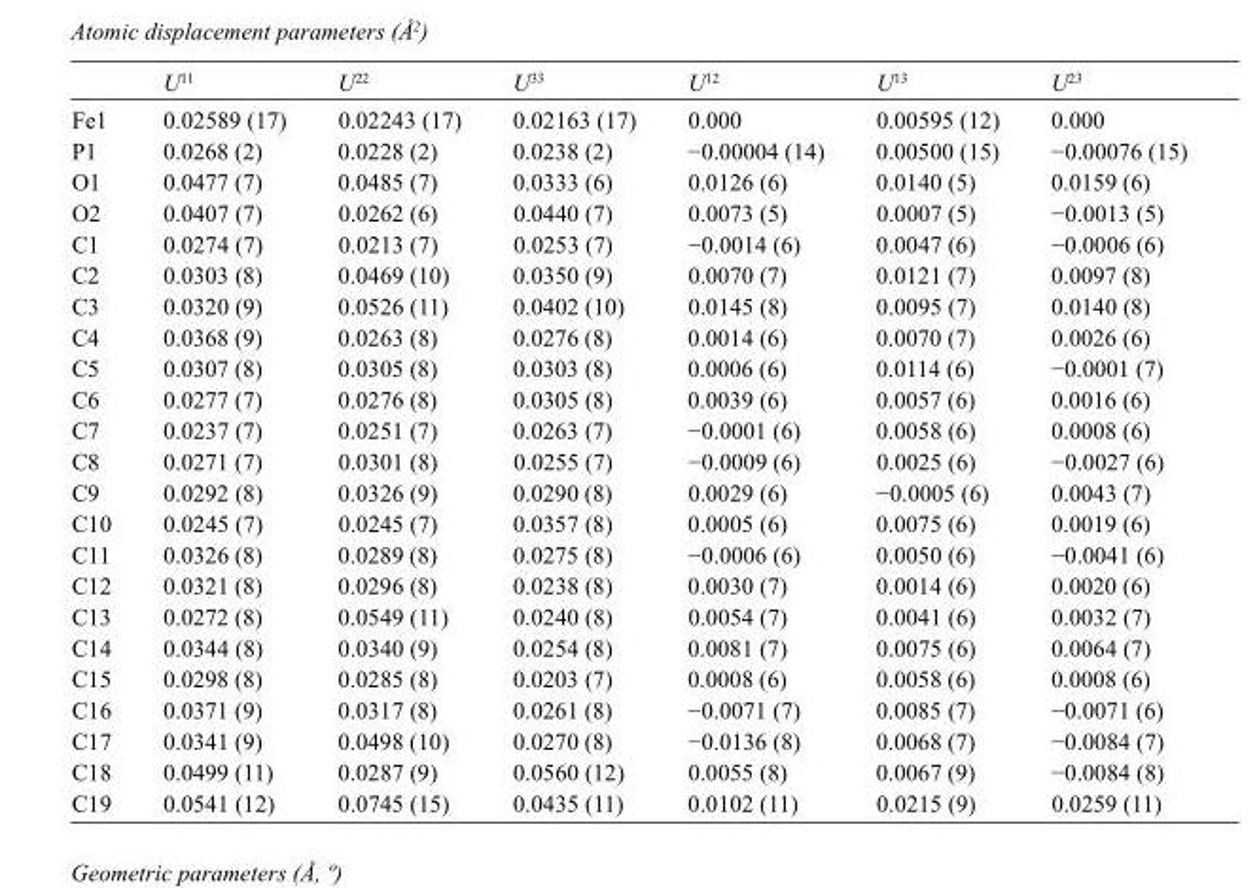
<table><thead><tr><td></td><td>U<sup>11</sup></td><td>U<sup>22</sup></td><td>U<sup>33</sup></td><td>U<sup>12</sup></td><td>U<sup>13</sup></td><td>U<sup>23</sup></td></tr></thead><tbody><tr><td>Fe1</td><td>0.02589 (17)</td><td>0.02243 (17)</td><td>0.02163 (17)</td><td>0.000</td><td>0.00595 (12)</td><td>0.000</td></tr><tr><td>P1</td><td>0.0268 (2)</td><td>0.0228 (2)</td><td>0.0238 (2)</td><td>−0.00004 (14)</td><td>0.00500 (15)</td><td>−0.00076 (15)</td></tr><tr><td>O1</td><td>0.0477 (7)</td><td>0.0485 (7)</td><td>0.0333 (6)</td><td>0.0126 (6)</td><td>0.0140 (5)</td><td>0.0159 (6)</td></tr><tr><td>O2</td><td>0.0407 (7)</td><td>0.0262 (6)</td><td>0.0440 (7)</td><td>0.0073 (5)</td><td>0.0007 (5)</td><td>−0.0013 (5)</td></tr><tr><td>C1</td><td>0.0274 (7)</td><td>0.0213 (7)</td><td>0.0253 (7)</td><td>−0.0014 (6)</td><td>0.0047 (6)</td><td>−0.0006 (6)</td></tr><tr><td>C2</td><td>0.0303 (8)</td><td>0.0469 (10)</td><td>0.0350 (9)</td><td>0.0070 (7)</td><td>0.0121 (7)</td><td>0.0097 (8)</td></tr><tr><td>C3</td><td>0.0320 (9)</td><td>0.0526 (11)</td><td>0.0402 (10)</td><td>0.0145 (8)</td><td>0.0095 (7)</td><td>0.0140 (8)</td></tr><tr><td>C4</td><td>0.0368 (9)</td><td>0.0263 (8)</td><td>0.0276 (8)</td><td>0.0014 (6)</td><td>0.0070 (7)</td><td>0.0026 (6)</td></tr><tr><td>C5</td><td>0.0307 (8)</td><td>0.0305 (8)</td><td>0.0303 (8)</td><td>0.0006 (6)</td><td>0.0114 (6)</td><td>−0.0001 (7)</td></tr><tr><td>C6</td><td>0.0277 (7)</td><td>0.0276 (8)</td><td>0.0305 (8)</td><td>0.0039 (6)</td><td>0.0057 (6)</td><td>0.0016 (6)</td></tr><tr><td>C7</td><td>0.0237 (7)</td><td>0.0251 (7)</td><td>0.0263 (7)</td><td>−0.0001 (6)</td><td>0.0058 (6)</td><td>0.0008 (6)</td></tr><tr><td>C8</td><td>0.0271 (7)</td><td>0.0301 (8)</td><td>0.0255 (7)</td><td>−0.0009 (6)</td><td>0.0025 (6)</td><td>−0.0027 (6)</td></tr><tr><td>C9</td><td>0.0292 (8)</td><td>0.0326 (9)</td><td>0.0290 (8)</td><td>0.0029 (6)</td><td>−0.0005 (6)</td><td>0.0043 (7)</td></tr><tr><td>C10</td><td>0.0245 (7)</td><td>0.0245 (7)</td><td>0.0357 (8)</td><td>0.0005 (6)</td><td>0.0075 (6)</td><td>0.0019 (6)</td></tr><tr><td>C11</td><td>0.0326 (8)</td><td>0.0289 (8)</td><td>0.0275 (8)</td><td>−0.0006 (6)</td><td>0.0050 (6)</td><td>−0.0041 (6)</td></tr><tr><td>C12</td><td>0.0321 (8)</td><td>0.0296 (8)</td><td>0.0238 (8)</td><td>0.0030 (7)</td><td>0.0014 (6)</td><td>0.0020 (6)</td></tr><tr><td>C13</td><td>0.0272 (8)</td><td>0.0549 (11)</td><td>0.0240 (8)</td><td>0.0054 (7)</td><td>0.0041 (6)</td><td>0.0032 (7)</td></tr><tr><td>C14</td><td>0.0344 (8)</td><td>0.0340 (9)</td><td>0.0254 (8)</td><td>0.0081 (7)</td><td>0.0075 (6)</td><td>0.0064 (7)</td></tr><tr><td>C15</td><td>0.0298 (8)</td><td>0.0285 (8)</td><td>0.0203 (7)</td><td>0.0008 (6)</td><td>0.0058 (6)</td><td>0.0008 (6)</td></tr><tr><td>C16</td><td>0.0371 (9)</td><td>0.0317 (8)</td><td>0.0261 (8)</td><td>−0.0071 (7)</td><td>0.0085 (7)</td><td>−0.0071 (6)</td></tr><tr><td>C17</td><td>0.0341 (9)</td><td>0.0498 (10)</td><td>0.0270 (8)</td><td>−0.0136 (8)</td><td>0.0068 (7)</td><td>−0.0084 (7)</td></tr><tr><td>C18</td><td>0.0499 (11)</td><td>0.0287 (9)</td><td>0.0560 (12)</td><td>0.0055 (8)</td><td>0.0067 (9)</td><td>−0.0084 (8)</td></tr><tr><td>C19</td><td>0.0541 (12)</td><td>0.0745 (15)</td><td>0.0435 (11)</td><td>0.0102 (11)</td><td>0.0215 (9)</td><td>0.0259 (11)</td></tr></tbody></table>